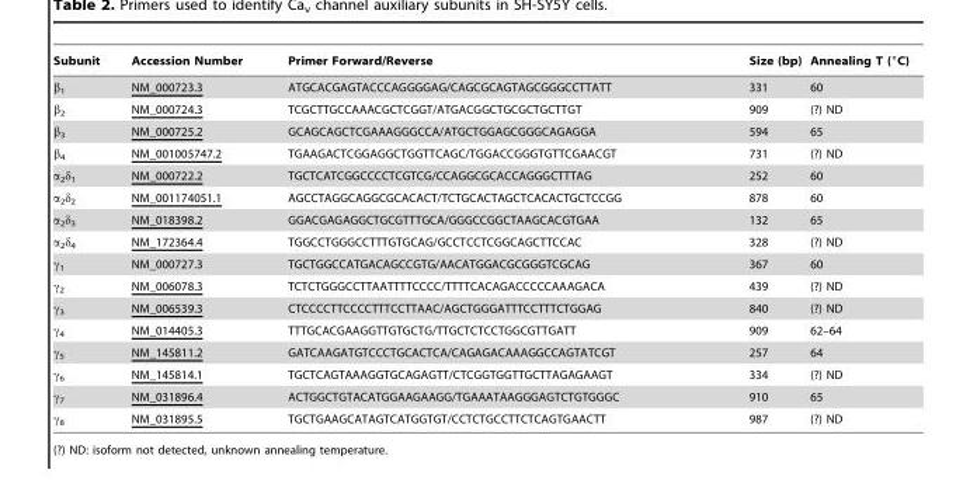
<table><thead><tr><td>Subunit</td><td>Accession Number</td><td>Primer Forward/Reverse</td><td>Size (bp)</td><td>Annealing T (°C)</td></tr></thead><tbody><tr><td>β<sub>1</sub></td><td>NM_000723.3</td><td>ATGCACGAGTACCCAGGGGAG/CAGCGCAGTAGCGGGCCTTATT</td><td>331</td><td>60</td></tr><tr><td>β<sub>2</sub></td><td>NM_000724.3</td><td>TCGCTTGCCAAACGCTCGGT/ATGACGGCTGCGCTGCTTGT</td><td>909</td><td>(?) ND</td></tr><tr><td>β<sub>3</sub></td><td>NM_000725.2</td><td>GCAGCAGCTCGAAAGGGCCA/ATGCTGGAGCGGGCAGAGGA</td><td>594</td><td>65</td></tr><tr><td>β<sub>4</sub></td><td>NM_001005747.2</td><td>TGAAGACTCGGAGGCTGGTTCAGC/TGGACCGGGTGTTCGAACGT</td><td>731</td><td>(?) ND</td></tr><tr><td>α<sub>2</sub>δ<sub>1</sub></td><td>NM_000722.2</td><td>TGCTCATCGGCCCCTCGTCG/CCAGGCGCACCAGGGCTTTAG</td><td>252</td><td>60</td></tr><tr><td>α<sub>2</sub>δ<sub>2</sub></td><td>NM_001174051.1</td><td>AGCCTAGGCAGGCGCACACT/TCTGCACTAGCTCACACTGCTCCGG</td><td>878</td><td>60</td></tr><tr><td>α<sub>2</sub>δ<sub>3</sub></td><td>NM_018398.2</td><td>GGACGAGAGGCTGCGTTTGCA/GGGCCGGCTAAGCACGTGAA</td><td>132</td><td>65</td></tr><tr><td>α<sub>2</sub>δ<sub>4</sub></td><td>NM_172364.4</td><td>TGGCCTGGGCCTTTGTGCAG/GCCTCCTCGGCAGCTTCCAC</td><td>328</td><td>(?) ND</td></tr><tr><td>γ<sub>1</sub></td><td>NM_000727.3</td><td>TGCTGGCCATGACAGCCGTG/AACATGGACGCGGGTCGCAG</td><td>367</td><td>60</td></tr><tr><td>γ<sub>2</sub></td><td>NM_006078.3</td><td>TCTCTGGGCCTTAATTTTCCCC/TTTTCACAGACCCCCAAAGACA</td><td>439</td><td>(?) ND</td></tr><tr><td>γ<sub>3</sub></td><td>NM_006539.3</td><td>CTCCCCTTCCCCTTTCCTTAAC/AGCTGGGATTTCCTTTCTGGAG</td><td>840</td><td>(?) ND</td></tr><tr><td>γ<sub>4</sub></td><td>NM_014405.3</td><td>TTTGCACGAAGGTTGTGCTG/TTGCTCTCCTGGCGTTGATT</td><td>909</td><td>62–64</td></tr><tr><td>γ<sub>5</sub></td><td>NM_145811.2</td><td>GATCAAGATGTCCCTGCACTCA/CAGAGACAAAGGCCAGTATCGT</td><td>257</td><td>64</td></tr><tr><td>γ<sub>6</sub></td><td>NM_145814.1</td><td>TGCTCAGTAAAGGTGCAGAGTT/CTCGGTGGTTGCTTAGAGAAGT</td><td>334</td><td>(?) ND</td></tr><tr><td>γ<sub>7</sub></td><td>NM_031896.4</td><td>ACTGGCTGTACATGGAAGAAGG/TGAAATAAGGGAGTCTGTGGGC</td><td>910</td><td>65</td></tr><tr><td>γ<sub>8</sub></td><td>NM_031895.5</td><td>TGCTGAAGCATAGTCATGGTGT/CCTCTGCCTTCTCAGTGAACTT</td><td>987</td><td>(?) ND</td></tr></tbody></table>